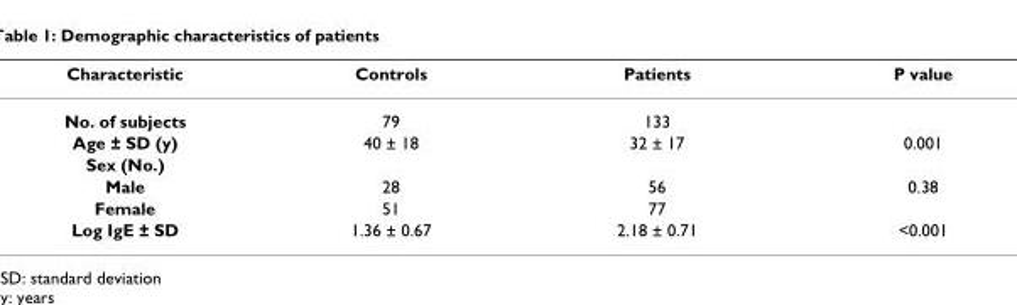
<table><thead><tr><td>Characteristic</td><td>Controls</td><td>Patients</td><td>P value</td></tr></thead><tbody><tr><td>No. of subjects</td><td>79</td><td>133</td><td></td></tr><tr><td>Age ± SD (y)</td><td>40 ± 18</td><td>32 ± 17</td><td>0.001</td></tr><tr><td colspan="4">Sex (No.)</td></tr><tr><td>Male</td><td>28</td><td>56</td><td>0.38</td></tr><tr><td>Female</td><td>51</td><td>77</td><td></td></tr><tr><td>Log IgE ± SD</td><td>1.36 ± 0.67</td><td>2.18 ± 0.71</td><td>&lt;0.001</td></tr></tbody></table>